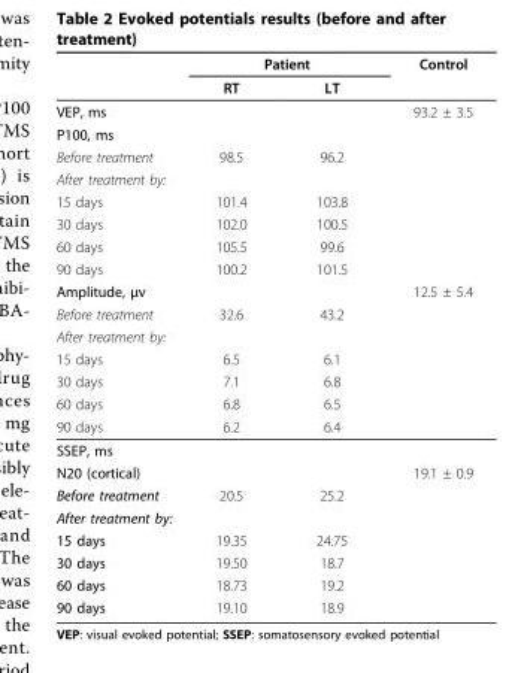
<table><thead><tr><td rowspan="2"></td><td colspan="2">Patient</td><td rowspan="2">Control</td></tr><tr><td>RT</td><td>LT</td></tr></thead><tbody><tr><td>VEP, ms</td><td></td><td></td><td>93.2 ± 3.5</td></tr><tr><td colspan="4">P100, ms</td></tr><tr><td>Before treatment</td><td>98.5</td><td>96.2</td><td></td></tr><tr><td colspan="4">After treatment by:</td></tr><tr><td>15 days</td><td>101.4</td><td>103.8</td><td></td></tr><tr><td>30 days</td><td>102.0</td><td>100.5</td><td></td></tr><tr><td>60 days</td><td>105.5</td><td>99.6</td><td></td></tr><tr><td>90 days</td><td>100.2</td><td>101.5</td><td></td></tr><tr><td>Amplitude, μv</td><td></td><td></td><td>12.5 ± 5.4</td></tr><tr><td>Before treatment</td><td>32.6</td><td>43.2</td><td></td></tr><tr><td colspan="4">After treatment by:</td></tr><tr><td>15 days</td><td>6.5</td><td>6.1</td><td></td></tr><tr><td>30 days</td><td>7.1</td><td>6.8</td><td></td></tr><tr><td>60 days</td><td>6.8</td><td>6.5</td><td></td></tr><tr><td>90 days</td><td>6.2</td><td>6.4</td><td></td></tr><tr><td colspan="4">SSEP, ms</td></tr><tr><td>N20 (cortical)</td><td></td><td></td><td>19.1 ± 0.9</td></tr><tr><td>Before treatment</td><td>20.5</td><td>25.2</td><td></td></tr><tr><td colspan="4">After treatment by:</td></tr><tr><td>15 days</td><td>19.35</td><td>24.75</td><td></td></tr><tr><td>30 days</td><td>19.50</td><td>18.7</td><td></td></tr><tr><td>60 days</td><td>18.73</td><td>19.2</td><td></td></tr><tr><td>90 days</td><td>19.10</td><td>18.9</td><td></td></tr></tbody></table>